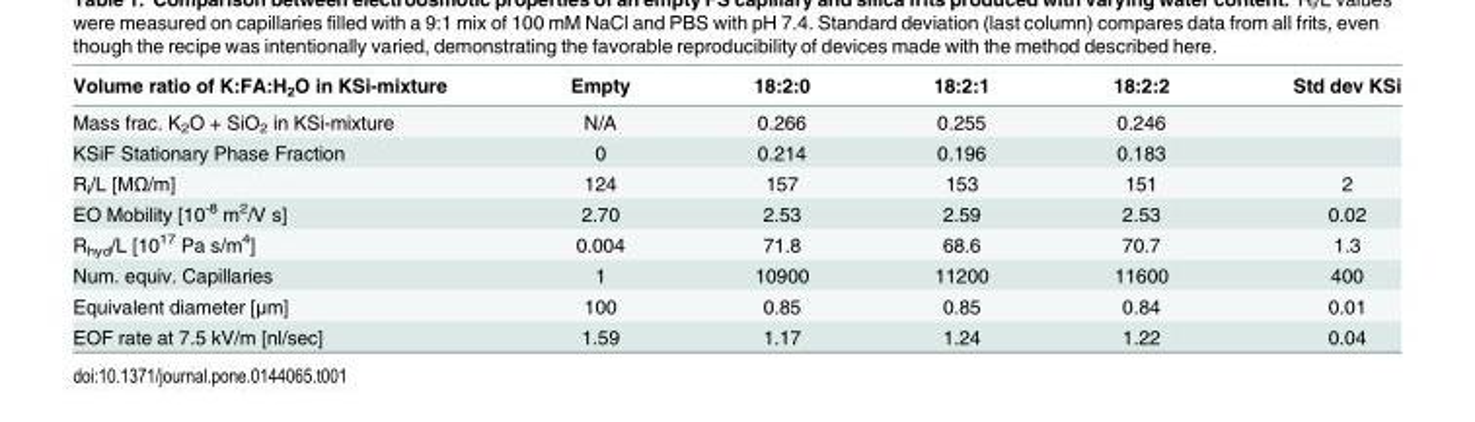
<table><thead><tr><td>Volume ratio of K:FA:H<sub>2</sub>O in KSi-mixture</td><td>Empty</td><td>18:2:0</td><td>18:2:1</td><td>18:2:2</td><td>Std dev KSi</td></tr></thead><tbody><tr><td>Mass frac. K<sub>2</sub>O + SiO<sub>2</sub> in KSi-mixture</td><td>N/A</td><td>0.266</td><td>0.255</td><td>0.246</td><td></td></tr><tr><td>KSiF Stationary Phase Fraction</td><td>0</td><td>0.214</td><td>0.196</td><td>0.183</td><td></td></tr><tr><td>R<sub>i</sub>/L [MΩ/m]</td><td>124</td><td>157</td><td>153</td><td>151</td><td>2</td></tr><tr><td>EO Mobility [10<sup>-8</sup> m<sup>2</sup>/V s]</td><td>2.70</td><td>2.53</td><td>2.59</td><td>2.53</td><td>0.02</td></tr><tr><td>R<sub>hyd</sub>/L [10<sup>17</sup> Pa s/m<sup>4</sup>]</td><td>0.004</td><td>71.8</td><td>68.6</td><td>70.7</td><td>1.3</td></tr><tr><td>Num. equiv. Capillaries</td><td>1</td><td>10900</td><td>11200</td><td>11600</td><td>400</td></tr><tr><td>Equivalent diameter [μm]</td><td>100</td><td>0.85</td><td>0.85</td><td>0.84</td><td>0.01</td></tr><tr><td>EOF rate at 7.5 kV/m [nl/sec]</td><td>1.59</td><td>1.17</td><td>1.24</td><td>1.22</td><td>0.04</td></tr></tbody></table>